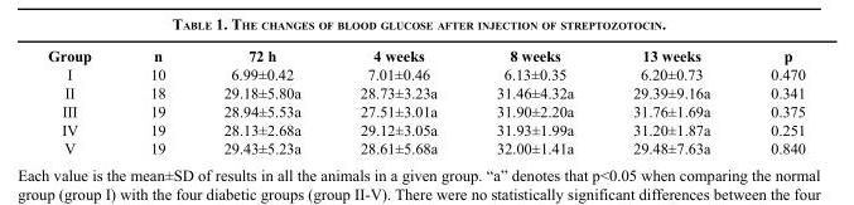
<table><tbody><tr><td>Group</td><td>n</td><td>72 h</td><td>4 weeks</td><td>8 weeks</td><td>13 weeks</td><td>p</td></tr><tr><td>I</td><td>10</td><td>6.99±0.42</td><td>7.01±0.46</td><td>6.13±0.35</td><td>6.20±0.73</td><td>0.470</td></tr><tr><td>II</td><td>18</td><td>29.18±5.80a</td><td>28.73±3.23a</td><td>31.46±4.32a</td><td>29.39±9.16a</td><td>0.341</td></tr><tr><td>III</td><td>19</td><td>28.94±5.53a</td><td>27.51±3.01a</td><td>31.90±2.20a</td><td>31.76±1.69a</td><td>0.375</td></tr><tr><td>IV</td><td>19</td><td>28.13±2.68a</td><td>29.12±3.05a</td><td>31.93±1.99a</td><td>31.20±1.87a</td><td>0.251</td></tr><tr><td>V</td><td>19</td><td>29.43±5.23a</td><td>28.61±5.68a</td><td>32.00±1.41a</td><td>29.48±7.63a</td><td>0.840</td></tr></tbody></table>